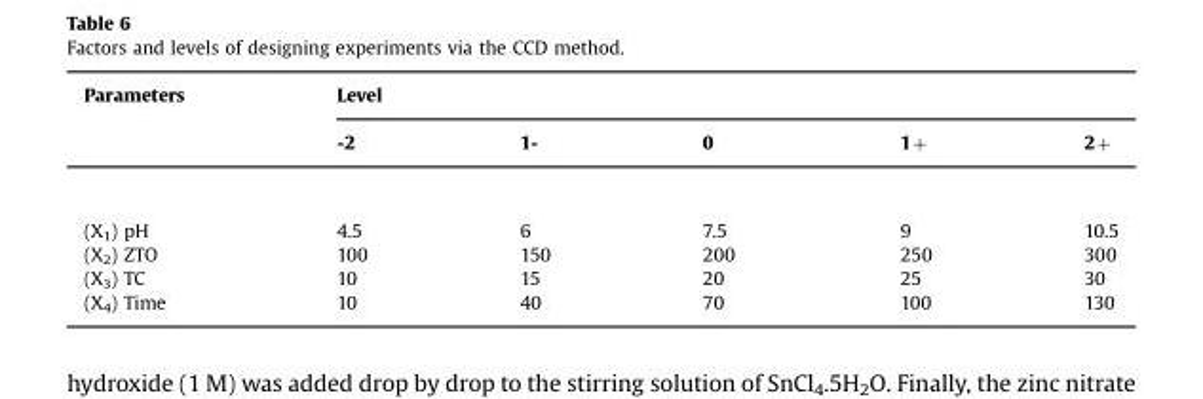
<table><thead><tr><td rowspan="2">Parameters</td><td colspan="5">Level</td></tr><tr><td>-2</td><td>1-</td><td>0</td><td>1+</td><td>2+</td></tr></thead><tbody><tr><td>(X<sub>1</sub>) pH</td><td>4.5</td><td>6</td><td>7.5</td><td>9</td><td>10.5</td></tr><tr><td>(X<sub>2</sub>) ZTO</td><td>100</td><td>150</td><td>200</td><td>250</td><td>300</td></tr><tr><td>(X<sub>3</sub>) TC</td><td>10</td><td>15</td><td>20</td><td>25</td><td>30</td></tr><tr><td>(X<sub>4</sub>) Time</td><td>10</td><td>40</td><td>70</td><td>100</td><td>130</td></tr></tbody></table>